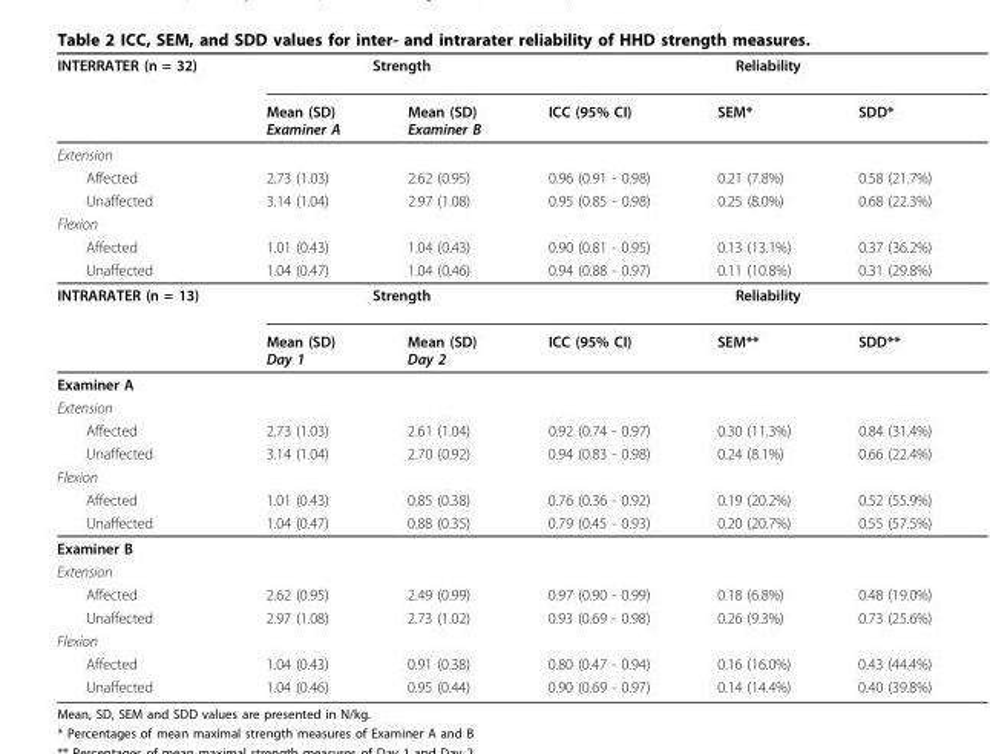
<table><thead><tr><td rowspan="2">INTERRATER (n = 32)</td><td colspan="2">Strength</td><td colspan="3">Reliability</td></tr><tr><td>Mean (SD) Examiner A</td><td>Mean (SD) Examiner B</td><td>ICC (95% CI)</td><td>SEM*</td><td>SDD*</td></tr></thead><tbody><tr><td colspan="6">Extension</td></tr><tr><td>Affected</td><td>2.73 (1.03)</td><td>2.62 (0.95)</td><td>0.96 (0.91 - 0.98)</td><td>0.21 (7.8%)</td><td>0.58 (21.7%)</td></tr><tr><td>Unaffected</td><td>3.14 (1.04)</td><td>2.97 (1.08)</td><td>0.95 (0.85 - 0.98)</td><td>0.25 (8.0%)</td><td>0.68 (22.3%)</td></tr><tr><td colspan="6">Flexion</td></tr><tr><td>Affected</td><td>1.01 (0.43)</td><td>1.04 (0.43)</td><td>0.90 (0.81 - 0.95)</td><td>0.13 (13.1%)</td><td>0.37 (36.2%)</td></tr><tr><td>Unaffected</td><td>1.04 (0.47)</td><td>1.04 (0.46)</td><td>0.94 (0.88 - 0.97)</td><td>0.11 (10.8%)</td><td>0.31 (29.8%)</td></tr><tr><td rowspan="2">INTRARATER (n = 13)</td><td colspan="2">Strength</td><td colspan="3">Reliability</td></tr><tr><td>Mean (SD) Day 1</td><td>Mean (SD) Day 2</td><td>ICC (95% CI)</td><td>SEM**</td><td>SDD**</td></tr><tr><td colspan="6">Examiner A</td></tr><tr><td colspan="6">Extension</td></tr><tr><td>Affected</td><td>2.73 (1.03)</td><td>2.61 (1.04)</td><td>0.92 (0.74 - 0.97)</td><td>0.30 (11.3%)</td><td>0.84 (31.4%)</td></tr><tr><td>Unaffected</td><td>3.14 (1.04)</td><td>2.70 (0.92)</td><td>0.94 (0.83 - 0.98)</td><td>0.24 (8.1%)</td><td>0.66 (22.4%)</td></tr><tr><td colspan="6">Flexion</td></tr><tr><td>Affected</td><td>1.01 (0.43)</td><td>0.85 (0.38)</td><td>0.76 (0.36 - 0.92)</td><td>0.19 (20.2%)</td><td>0.52 (55.9%)</td></tr><tr><td>Unaffected</td><td>1.04 (0.47)</td><td>0.88 (0.35)</td><td>0.79 (0.45 - 0.93)</td><td>0.20 (20.7%)</td><td>0.55 (57.5%)</td></tr><tr><td colspan="6">Examiner B</td></tr><tr><td colspan="6">Extension</td></tr><tr><td>Affected</td><td>2.62 (0.95)</td><td>2.49 (0.99)</td><td>0.97 (0.90 - 0.99)</td><td>0.18 (6.8%)</td><td>0.48 (19.0%)</td></tr><tr><td>Unaffected</td><td>2.97 (1.08)</td><td>2.73 (1.02)</td><td>0.93 (0.69 - 0.98)</td><td>0.26 (9.3%)</td><td>0.73 (25.6%)</td></tr><tr><td colspan="6">Flexion</td></tr><tr><td>Affected</td><td>1.04 (0.43)</td><td>0.91 (0.38)</td><td>0.80 (0.47 - 0.94)</td><td>0.16 (16.0%)</td><td>0.43 (44.4%)</td></tr><tr><td>Unaffected</td><td>1.04 (0.46)</td><td>0.95 (0.44)</td><td>0.90 (0.69 - 0.97)</td><td>0.14 (14.4%)</td><td>0.40 (39.8%)</td></tr></tbody></table>